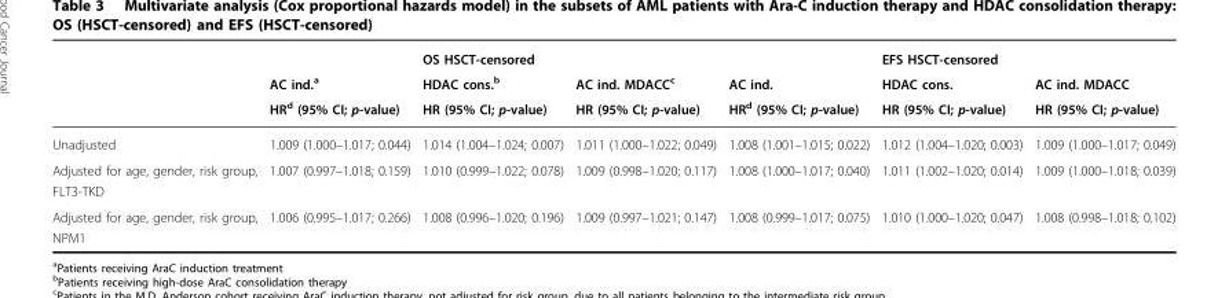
<table><thead><tr><td rowspan="3"></td><td rowspan="3">AC ind.<sup>a</sup> HR<sup>d</sup> (95% CI; p-value)</td><td rowspan="3">OS HSCT-censored HDAC cons.<sup>b</sup> HR (95% CI; p-value)</td><td rowspan="3">AC ind. MDACC<sup>c</sup> HR (95% CI; p-value)</td><td rowspan="3">AC ind. HR<sup>d</sup> (95% CI; p-value)</td><td rowspan="3">EFS HSCT-censored HDAC cons. HR (95% CI; p-value)</td><td rowspan="3">AC ind. MDACC HR (95% CI; p-value)</td></tr><tr></tr><tr></tr></thead><tbody><tr><td>Unadjusted</td><td>1.009 (1.000–1.017; 0.044)</td><td>1.014 (1.004–1.024; 0.007)</td><td>1.011 (1.000–1.022; 0.049)</td><td>1.008 (1.001–1.015; 0.022)</td><td>1.012 (1.004–1.020; 0.003)</td><td>1.009 (1.000–1.017; 0.049)</td></tr><tr><td>Adjusted for age, gender, risk group, FLT3-TKD</td><td>1.007 (0.997–1.018; 0.159)</td><td>1.010 (0.999–1.022; 0.078)</td><td>1.009 (0.998–1.020; 0.117)</td><td>1.008 (1.000–1.017; 0.040)</td><td>1.011 (1.002–1.020; 0.014)</td><td>1.009 (1.000–1.018; 0.039)</td></tr><tr><td>Adjusted for age, gender, risk group, NPM1</td><td>1.006 (0.995–1.017; 0.266)</td><td>1.008 (0.996–1.020; 0.196)</td><td>1.009 (0.997–1.021; 0.147)</td><td>1.008 (0.999–1.017; 0.075)</td><td>1.010 (1.000–1.020; 0.047)</td><td>1.008 (0.998–1.018; 0.102)</td></tr></tbody></table>